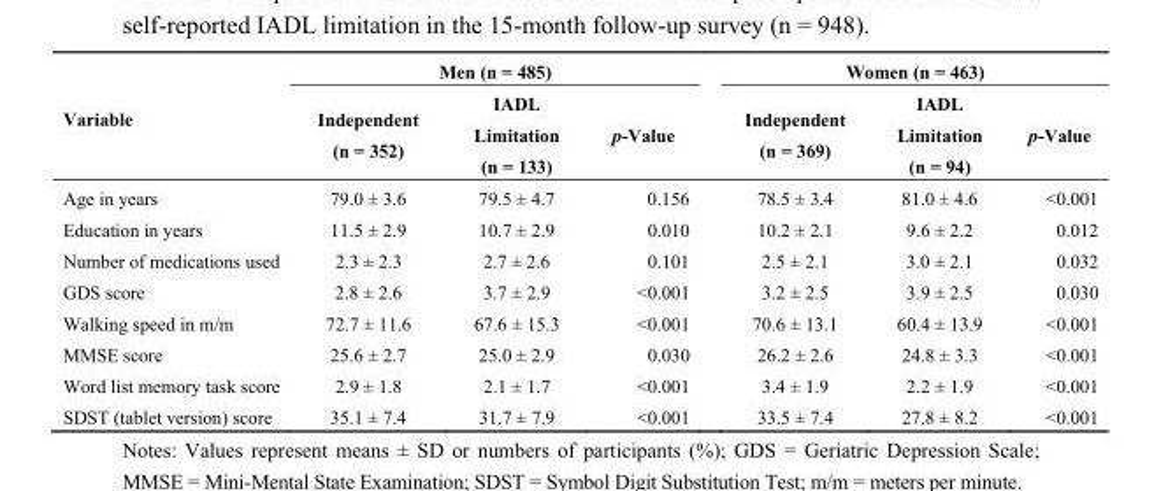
<table><thead><tr><td rowspan="2">Variable</td><td colspan="3">Men (n = 485)</td><td colspan="3">Women (n = 463)</td></tr><tr><td>Independent (n = 352)</td><td>IADL Limitation (n = 133)</td><td>p-Value</td><td>Independent (n = 369)</td><td>IADL Limitation (n = 94)</td><td>p-Value</td></tr></thead><tbody><tr><td>Age in years</td><td>79.0 ± 3.6</td><td>79.5 ± 4.7</td><td>0.156</td><td>78.5 ± 3.4</td><td>81.0 ± 4.6</td><td>&lt;0.001</td></tr><tr><td>Education in years</td><td>11.5 ± 2.9</td><td>10.7 ± 2.9</td><td>0.010</td><td>10.2 ± 2.1</td><td>9.6 ± 2.2</td><td>0.012</td></tr><tr><td>Number of medications used</td><td>2.3 ± 2.3</td><td>2.7 ± 2.6</td><td>0.101</td><td>2.5 ± 2.1</td><td>3.0 ± 2.1</td><td>0.032</td></tr><tr><td>GDS score</td><td>2.8 ± 2.6</td><td>3.7 ± 2.9</td><td>&lt;0.001</td><td>3.2 ± 2.5</td><td>3.9 ± 2.5</td><td>0.030</td></tr><tr><td>Walking speed in m/m</td><td>72.7 ± 11.6</td><td>67.6 ± 15.3</td><td>&lt;0.001</td><td>70.6 ± 13.1</td><td>60.4 ± 13.9</td><td>&lt;0.001</td></tr><tr><td>MMSE score</td><td>25.6 ± 2.7</td><td>25.0 ± 2.9</td><td>0.030</td><td>26.2 ± 2.6</td><td>24.8 ± 3.3</td><td>&lt;0.001</td></tr><tr><td>Word list memory task score</td><td>2.9 ± 1.8</td><td>2.1 ± 1.7</td><td>&lt;0.001</td><td>3.4 ± 1.9</td><td>2.2 ± 1.9</td><td>&lt;0.001</td></tr><tr><td>SDST (tablet version) score</td><td>35.1 ± 7.4</td><td>31.7 ± 7.9</td><td>&lt;0.001</td><td>33.5 ± 7.4</td><td>27.8 ± 8.2</td><td>&lt;0.001</td></tr></tbody></table>